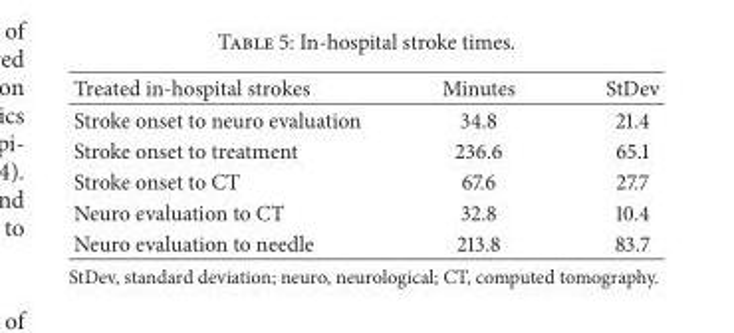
<table><thead><tr><td>Treated in-hospital strokes</td><td>Minutes</td><td>StDev</td></tr></thead><tbody><tr><td>Stroke onset to neuro evaluation</td><td>34.8</td><td>21.4</td></tr><tr><td>Stroke onset to treatment</td><td>236.6</td><td>65.1</td></tr><tr><td>Stroke onset to CT</td><td>67.6</td><td>27.7</td></tr><tr><td>Neuro evaluation to CT</td><td>32.8</td><td>10.4</td></tr><tr><td>Neuro evaluation to needle</td><td>213.8</td><td>83.7</td></tr></tbody></table>